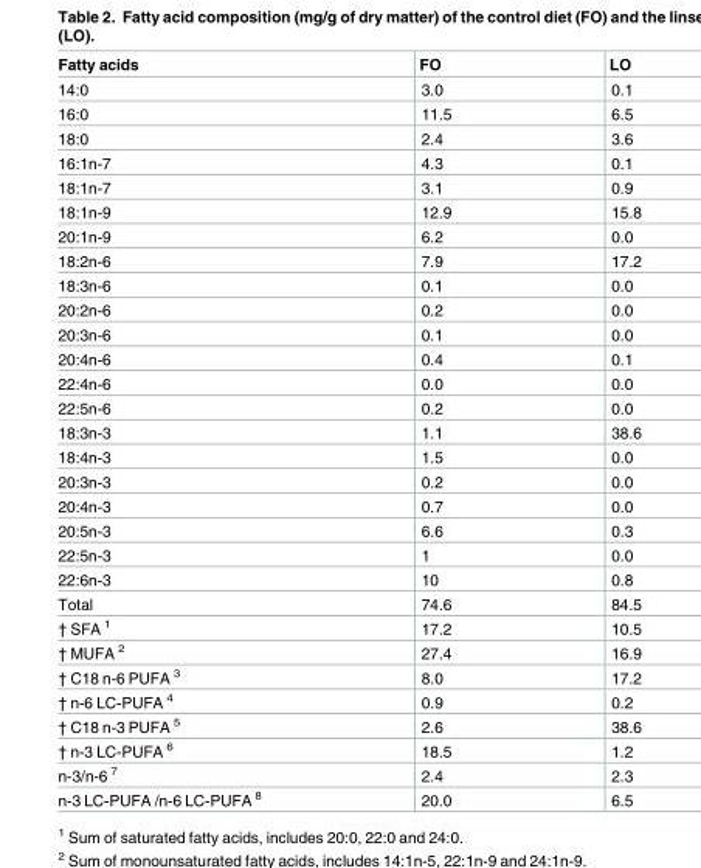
<table><thead><tr><td>Fatty acids</td><td>FO</td><td>LO</td></tr></thead><tbody><tr><td>14:0</td><td>3.0</td><td>0.1</td></tr><tr><td>16:0</td><td>11.5</td><td>6.5</td></tr><tr><td>18:0</td><td>2.4</td><td>3.6</td></tr><tr><td>16:1n-7</td><td>4.3</td><td>0.1</td></tr><tr><td>18:1n-7</td><td>3.1</td><td>0.9</td></tr><tr><td>18:1n-9</td><td>12.9</td><td>15.8</td></tr><tr><td>20:1n-9</td><td>6.2</td><td>0.0</td></tr><tr><td>18:2n-6</td><td>7.9</td><td>17.2</td></tr><tr><td>18:3n-6</td><td>0.1</td><td>0.0</td></tr><tr><td>20:2n-6</td><td>0.2</td><td>0.0</td></tr><tr><td>20:3n-6</td><td>0.1</td><td>0.0</td></tr><tr><td>20:4n-6</td><td>0.4</td><td>0.1</td></tr><tr><td>22:4n-6</td><td>0.0</td><td>0.0</td></tr><tr><td>22:5n-6</td><td>0.2</td><td>0.0</td></tr><tr><td>18:3n-3</td><td>1.1</td><td>38.6</td></tr><tr><td>18:4n-3</td><td>1.5</td><td>0.0</td></tr><tr><td>20:3n-3</td><td>0.2</td><td>0.0</td></tr><tr><td>20:4n-3</td><td>0.7</td><td>0.0</td></tr><tr><td>20:5n-3</td><td>6.6</td><td>0.3</td></tr><tr><td>22:5n-3</td><td>1</td><td>0.0</td></tr><tr><td>22:6n-3</td><td>10</td><td>0.8</td></tr><tr><td>Total</td><td>74.6</td><td>84.5</td></tr><tr><td>† SFA 1</td><td>17.2</td><td>10.5</td></tr><tr><td>† MUFA 2</td><td>27.4</td><td>16.9</td></tr><tr><td>† C18 n-6 PUFA 3</td><td>8.0</td><td>17.2</td></tr><tr><td>† n-6 LC-PUFA 4</td><td>0.9</td><td>0.2</td></tr><tr><td>† C18 n-3 PUFA 5</td><td>2.6</td><td>38.6</td></tr><tr><td>† n-3 LC-PUFA 6</td><td>18.5</td><td>1.2</td></tr><tr><td>n-3/n-6 <sup>7</sup></td><td>2.4</td><td>2.3</td></tr><tr><td>n-3 LC-PUFA /n-6 LC-PUFA <sup>8</sup></td><td>20.0</td><td>6.5</td></tr></tbody></table>